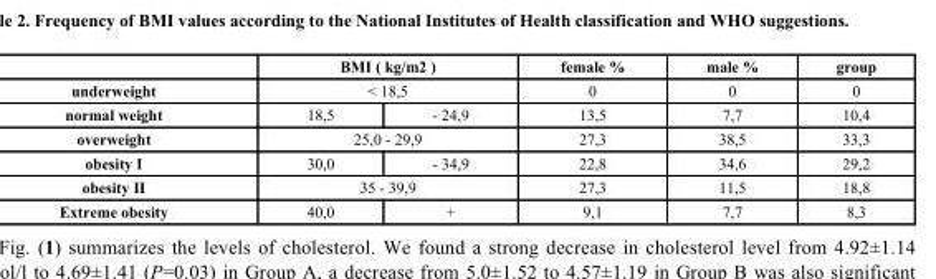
<table><thead><tr><td rowspan="3">underweight normal weight</td><td rowspan="2" colspan="2">BMI ( kg/m2 ) &lt; 18,5</td><td rowspan="3">female % 0 13,5</td><td rowspan="3">male % 0 7,7</td><td rowspan="3">group 0 10,4</td></tr><tr></tr><tr><td>18,5</td><td>- 24,9</td></tr></thead><tbody><tr><td>overweight</td><td colspan="2">25,0 - 29,9</td><td>27,3</td><td>38,5</td><td>33,3</td></tr><tr><td>obesity I</td><td>30,0</td><td>- 34,9</td><td>22,8</td><td>34,6</td><td>29,2</td></tr><tr><td>obesity II</td><td colspan="2">35 - 39,9</td><td>27,3</td><td>11,5</td><td>18,8</td></tr><tr><td>Extreme obesity</td><td>40,0</td><td>+</td><td>9,1</td><td>7,7</td><td>8,3</td></tr></tbody></table>